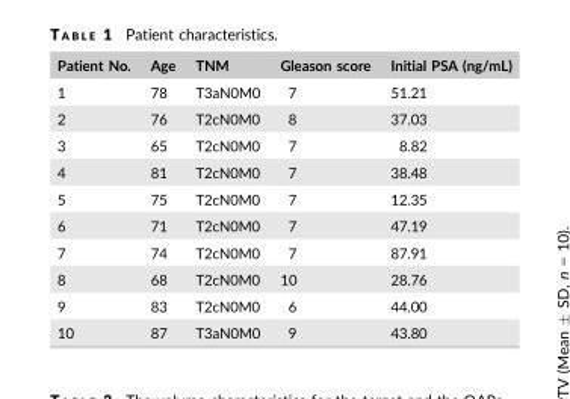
<table><thead><tr><td>Patient No.</td><td>Age</td><td>TNM</td><td>Gleason score</td><td>Initial PSA (ng/mL)</td></tr></thead><tbody><tr><td>1</td><td>78</td><td>T3aN0M0</td><td>7</td><td>51.21</td></tr><tr><td>2</td><td>76</td><td>T2cN0M0</td><td>8</td><td>37.03</td></tr><tr><td>3</td><td>65</td><td>T2cN0M0</td><td>7</td><td>8.82</td></tr><tr><td>4</td><td>81</td><td>T2cN0M0</td><td>7</td><td>38.48</td></tr><tr><td>5</td><td>75</td><td>T2cN0M0</td><td>7</td><td>12.35</td></tr><tr><td>6</td><td>71</td><td>T2cN0M0</td><td>7</td><td>47.19</td></tr><tr><td>7</td><td>74</td><td>T2cN0M0</td><td>7</td><td>87.91</td></tr><tr><td>8</td><td>68</td><td>T2cN0M0</td><td>10</td><td>28.76</td></tr><tr><td>9</td><td>83</td><td>T2cN0M0</td><td>6</td><td>44.00</td></tr><tr><td>10</td><td>87</td><td>T3aN0M0</td><td>9</td><td>43.80</td></tr></tbody></table>